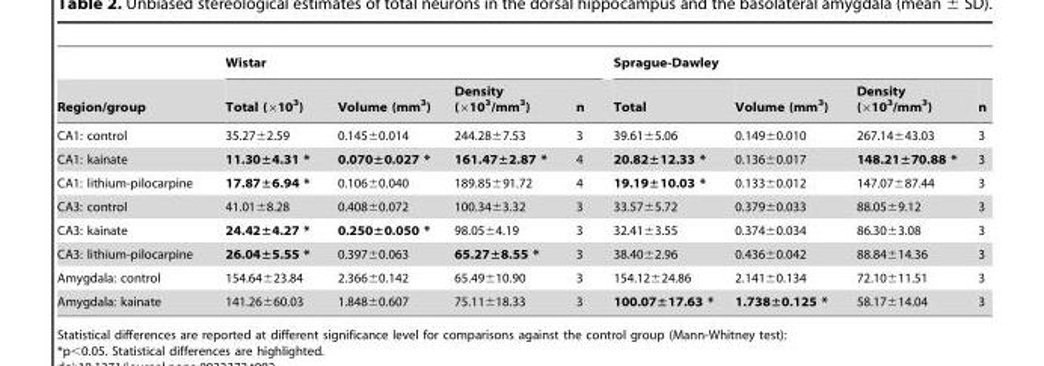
<table><thead><tr><td rowspan="2">Region/group</td><td colspan="4">Wistar</td><td colspan="4">Sprague-Dawley</td></tr><tr><td>Total (×10<sup>3</sup>)</td><td>Volume (mm<sup>3</sup>)</td><td>Density (×10<sup>3</sup>/mm<sup>3</sup>)</td><td>n</td><td>Total</td><td>Volume (mm<sup>3</sup>)</td><td>Density (×10<sup>3</sup>/mm<sup>3</sup>)</td><td>n</td></tr></thead><tbody><tr><td>CA1: control</td><td>35.27±2.59</td><td>0.145±0.014</td><td>244.28±7.53</td><td>3</td><td>39.61±5.06</td><td>0.149±0.010</td><td>267.14±43.03</td><td>3</td></tr><tr><td>CA1: kainate</td><td>11.30±4.31 *</td><td>0.070±0.027 *</td><td>161.47±2.87 *</td><td>4</td><td>20.82±12.33 *</td><td>0.136±0.017</td><td>148.21±70.88 *</td><td>3</td></tr><tr><td>CA1: lithium-pilocarpine</td><td>17.87±6.94 *</td><td>0.106±0.040</td><td>189.85±91.72</td><td>4</td><td>19.19±10.03 *</td><td>0.133±0.012</td><td>147.07±87.44</td><td>3</td></tr><tr><td>CA3: control</td><td>41.01±8.28</td><td>0.408±0.072</td><td>100.34±3.32</td><td>3</td><td>33.57±5.72</td><td>0.379±0.033</td><td>88.05±9.12</td><td>3</td></tr><tr><td>CA3: kainate</td><td>24.42±4.27 *</td><td>0.250±0.050 *</td><td>98.05±4.19</td><td>3</td><td>32.41±3.55</td><td>0.374±0.034</td><td>86.30±3.08</td><td>3</td></tr><tr><td>CA3: lithium-pilocarpine</td><td>26.04±5.55 *</td><td>0.397±0.063</td><td>65.27±8.55 *</td><td>3</td><td>38.40±2.96</td><td>0.436±0.042</td><td>88.84±14.36</td><td>3</td></tr><tr><td>Amygdala: control</td><td>154.64±23.84</td><td>2.366±0.142</td><td>65.49±10.90</td><td>3</td><td>154.12±24.86</td><td>2.141±0.134</td><td>72.10±11.51</td><td>3</td></tr><tr><td>Amygdala: kainate</td><td>141.26±60.03</td><td>1.848±0.607</td><td>75.11±18.33</td><td>3</td><td>100.07±17.63 *</td><td>1.738±0.125 *</td><td>58.17±14.04</td><td>3</td></tr></tbody></table>